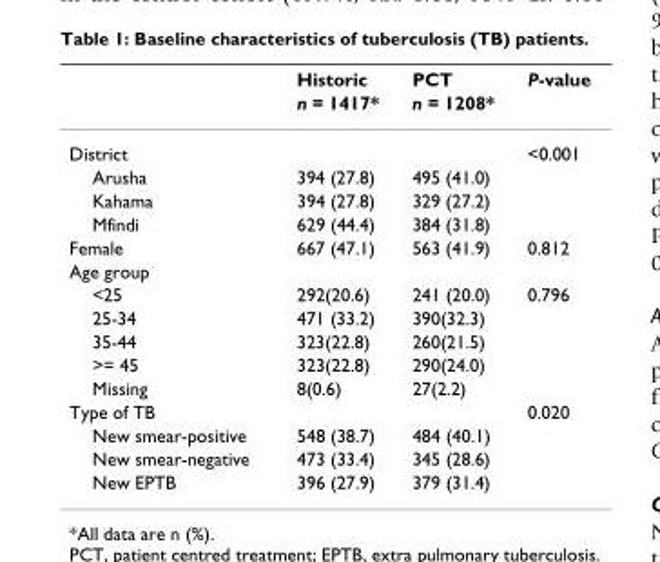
<table><thead><tr><td rowspan="2"></td><td rowspan="2">Historic n = 1417*</td><td rowspan="2">PCT n = 1208*</td><td rowspan="2">P-value</td></tr><tr></tr></thead><tbody><tr><td>District</td><td></td><td></td><td>&lt;0.001</td></tr><tr><td>Arusha</td><td>394 (27.8)</td><td>495 (41.0)</td><td></td></tr><tr><td>Kahama</td><td>394 (27.8)</td><td>329 (27.2)</td><td></td></tr><tr><td>Mfindi</td><td>629 (44.4)</td><td>384 (31.8)</td><td></td></tr><tr><td>Female</td><td>667 (47.1)</td><td>563 (41.9)</td><td>0.812</td></tr><tr><td colspan="4">Age group</td></tr><tr><td>&lt;25</td><td>292(20.6)</td><td>241 (20.0)</td><td>0.796</td></tr><tr><td>25-34</td><td>471 (33.2)</td><td>390(32.3)</td><td></td></tr><tr><td>35-44</td><td>323(22.8)</td><td>260(21.5)</td><td></td></tr><tr><td>&gt;= 45</td><td>323(22.8)</td><td>290(24.0)</td><td></td></tr><tr><td>Missing</td><td>8(0.6)</td><td>27(2.2)</td><td></td></tr><tr><td>Type of TB</td><td></td><td></td><td>0.020</td></tr><tr><td>New smear-positive</td><td>548 (38.7)</td><td>484 (40.1)</td><td></td></tr><tr><td>New smear-negative</td><td>473 (33.4)</td><td>345 (28.6)</td><td></td></tr><tr><td>New EPTB</td><td>396 (27.9)</td><td>379 (31.4)</td><td></td></tr></tbody></table>